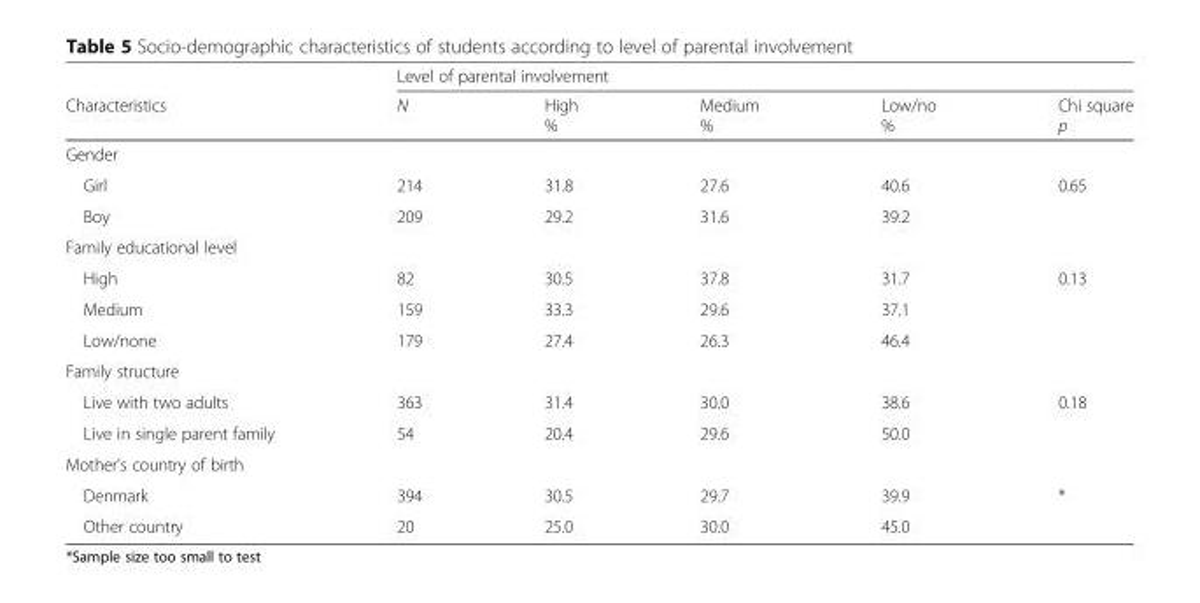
<table><thead><tr><td rowspan="2">Characteristics</td><td colspan="5">Level of parental involvement</td></tr><tr><td>N</td><td>High %</td><td>Medium %</td><td>Low/no %</td><td>Chi square p</td></tr></thead><tbody><tr><td colspan="6">Gender</td></tr><tr><td>Girl</td><td>214</td><td>31.8</td><td>27.6</td><td>40.6</td><td>0.65</td></tr><tr><td>Boy</td><td>209</td><td>29.2</td><td>31.6</td><td>39.2</td><td></td></tr><tr><td colspan="6">Family educational level</td></tr><tr><td>High</td><td>82</td><td>30.5</td><td>37.8</td><td>31.7</td><td>0.13</td></tr><tr><td>Medium</td><td>159</td><td>33.3</td><td>29.6</td><td>37.1</td><td></td></tr><tr><td>Low/none</td><td>179</td><td>27.4</td><td>26.3</td><td>46.4</td><td></td></tr><tr><td colspan="6">Family structure</td></tr><tr><td>Live with two adults</td><td>363</td><td>31.4</td><td>30.0</td><td>38.6</td><td>0.18</td></tr><tr><td>Live in single parent family</td><td>54</td><td>20.4</td><td>29.6</td><td>50.0</td><td></td></tr><tr><td colspan="6">Mother’s country of birth</td></tr><tr><td>Denmark</td><td>394</td><td>30.5</td><td>29.7</td><td>39.9</td><td>*</td></tr><tr><td>Other country</td><td>20</td><td>25.0</td><td>30.0</td><td>45.0</td><td></td></tr></tbody></table>